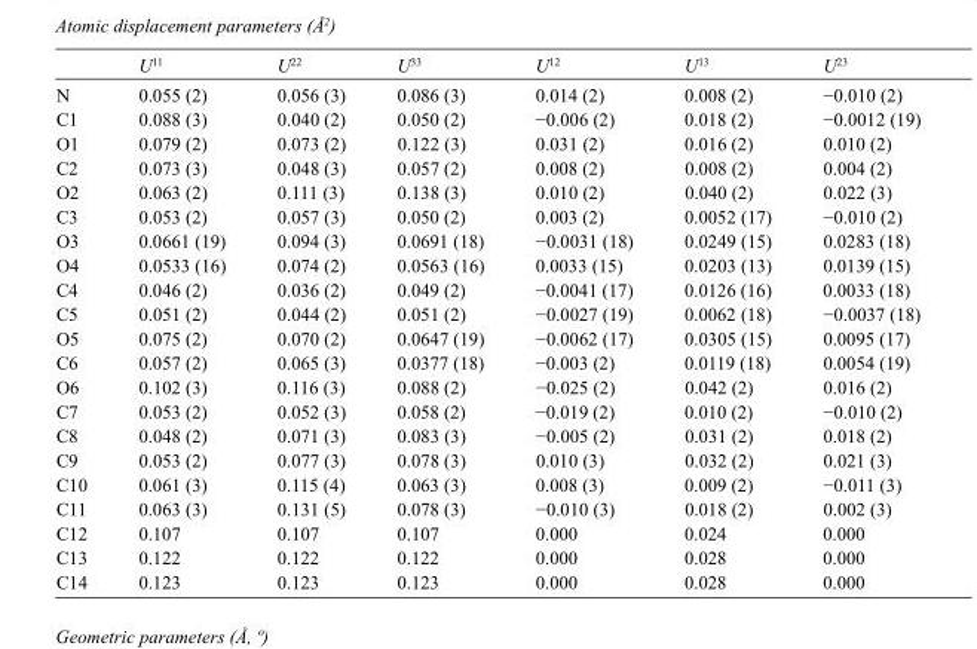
<table><thead><tr><td></td><td>U<sup>11</sup></td><td>U<sup>22</sup></td><td>U<sup>33</sup></td><td>U<sup>12</sup></td><td>U<sup>13</sup></td><td>U<sup>23</sup></td></tr></thead><tbody><tr><td>N</td><td>0.055 (2)</td><td>0.056 (3)</td><td>0.086 (3)</td><td>0.014 (2)</td><td>0.008 (2)</td><td>−0.010 (2)</td></tr><tr><td>C1</td><td>0.088 (3)</td><td>0.040 (2)</td><td>0.050 (2)</td><td>−0.006 (2)</td><td>0.018 (2)</td><td>−0.0012 (19)</td></tr><tr><td>O1</td><td>0.079 (2)</td><td>0.073 (2)</td><td>0.122 (3)</td><td>0.031 (2)</td><td>0.016 (2)</td><td>0.010 (2)</td></tr><tr><td>C2</td><td>0.073 (3)</td><td>0.048 (3)</td><td>0.057 (2)</td><td>0.008 (2)</td><td>0.008 (2)</td><td>0.004 (2)</td></tr><tr><td>O2</td><td>0.063 (2)</td><td>0.111 (3)</td><td>0.138 (3)</td><td>0.010 (2)</td><td>0.040 (2)</td><td>0.022 (3)</td></tr><tr><td>C3</td><td>0.053 (2)</td><td>0.057 (3)</td><td>0.050 (2)</td><td>0.003 (2)</td><td>0.0052 (17)</td><td>−0.010 (2)</td></tr><tr><td>O3</td><td>0.0661 (19)</td><td>0.094 (3)</td><td>0.0691 (18)</td><td>−0.0031 (18)</td><td>0.0249 (15)</td><td>0.0283 (18)</td></tr><tr><td>O4</td><td>0.0533 (16)</td><td>0.074 (2)</td><td>0.0563 (16)</td><td>0.0033 (15)</td><td>0.0203 (13)</td><td>0.0139 (15)</td></tr><tr><td>C4</td><td>0.046 (2)</td><td>0.036 (2)</td><td>0.049 (2)</td><td>−0.0041 (17)</td><td>0.0126 (16)</td><td>0.0033 (18)</td></tr><tr><td>C5</td><td>0.051 (2)</td><td>0.044 (2)</td><td>0.051 (2)</td><td>−0.0027 (19)</td><td>0.0062 (18)</td><td>−0.0037 (18)</td></tr><tr><td>O5</td><td>0.075 (2)</td><td>0.070 (2)</td><td>0.0647 (19)</td><td>−0.0062 (17)</td><td>0.0305 (15)</td><td>0.0095 (17)</td></tr><tr><td>C6</td><td>0.057 (2)</td><td>0.065 (3)</td><td>0.0377 (18)</td><td>−0.003 (2)</td><td>0.0119 (18)</td><td>0.0054 (19)</td></tr><tr><td>O6</td><td>0.102 (3)</td><td>0.116 (3)</td><td>0.088 (2)</td><td>−0.025 (2)</td><td>0.042 (2)</td><td>0.016 (2)</td></tr><tr><td>C7</td><td>0.053 (2)</td><td>0.052 (3)</td><td>0.058 (2)</td><td>−0.019 (2)</td><td>0.010 (2)</td><td>−0.010 (2)</td></tr><tr><td>C8</td><td>0.048 (2)</td><td>0.071 (3)</td><td>0.083 (3)</td><td>−0.005 (2)</td><td>0.031 (2)</td><td>0.018 (2)</td></tr><tr><td>C9</td><td>0.053 (2)</td><td>0.077 (3)</td><td>0.078 (3)</td><td>0.010 (3)</td><td>0.032 (2)</td><td>0.021 (3)</td></tr><tr><td>C10</td><td>0.061 (3)</td><td>0.115 (4)</td><td>0.063 (3)</td><td>0.008 (3)</td><td>0.009 (2)</td><td>−0.011 (3)</td></tr><tr><td>C11</td><td>0.063 (3)</td><td>0.131 (5)</td><td>0.078 (3)</td><td>−0.010 (3)</td><td>0.018 (2)</td><td>0.002 (3)</td></tr><tr><td>C12</td><td>0.107</td><td>0.107</td><td>0.107</td><td>0.000</td><td>0.024</td><td>0.000</td></tr><tr><td>C13</td><td>0.122</td><td>0.122</td><td>0.122</td><td>0.000</td><td>0.028</td><td>0.000</td></tr><tr><td>C14</td><td>0.123</td><td>0.123</td><td>0.123</td><td>0.000</td><td>0.028</td><td>0.000</td></tr></tbody></table>